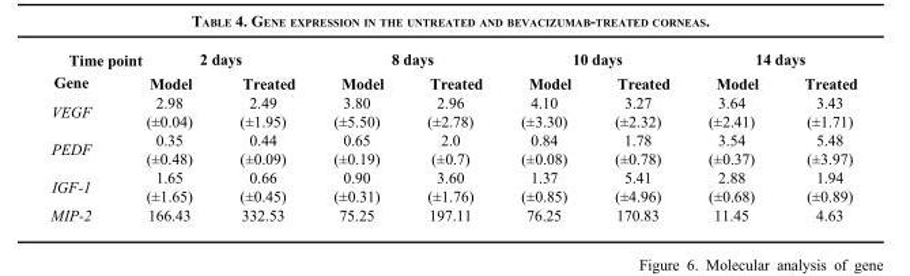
<table><thead><tr><td rowspan="2">Time point Gene</td><td colspan="2">2 days</td><td colspan="2">8 days</td><td colspan="2">10 days</td><td colspan="2">14 days</td></tr><tr><td>Model</td><td>Treated</td><td>Model</td><td>Treated</td><td>Model</td><td>Treated</td><td>Model</td><td>Treated</td></tr></thead><tbody><tr><td>VEGF</td><td>2.98 (±0.04)</td><td>2.49 (±1.95)</td><td>3.80 (±5.50)</td><td>2.96 (±2.78)</td><td>4.10 (±3.30)</td><td>3.27 (±2.32)</td><td>3.64 (±2.41)</td><td>3.43 (±1.71)</td></tr><tr><td>PEDF</td><td>0.35 (±0.48)</td><td>0.44 (±0.09)</td><td>0.65 (±0.19)</td><td>2.0 (±0.7)</td><td>0.84 (±0.08)</td><td>1.78 (±0.78)</td><td>3.54 (±0.37)</td><td>5.48 (±3.97)</td></tr><tr><td>IGF-1</td><td>1.65 (±1.65)</td><td>0.66 (±0.45)</td><td>0.90 (±0.31)</td><td>3.60 (±1.76)</td><td>1.37 (±0.85)</td><td>5.41 (±4.96)</td><td>2.88 (±0.68)</td><td>1.94 (±0.89)</td></tr><tr><td>MIP-2</td><td>166.43</td><td>332.53</td><td>75.25</td><td>197.11</td><td>76.25</td><td>170.83</td><td>11.45</td><td>4.63</td></tr></tbody></table>